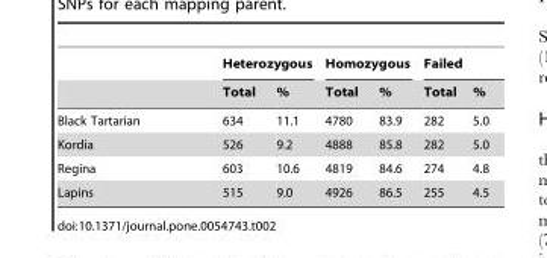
<table><thead><tr><td rowspan="2"></td><td colspan="2">Heterozygous</td><td colspan="2">Homozygous</td><td colspan="2">Failed</td></tr><tr><td>Total</td><td>%</td><td>Total</td><td>%</td><td>Total</td><td>%</td></tr></thead><tbody><tr><td>Black Tartarian</td><td>634</td><td>11.1</td><td>4780</td><td>83.9</td><td>282</td><td>5.0</td></tr><tr><td>Kordia</td><td>526</td><td>9.2</td><td>4888</td><td>85.8</td><td>282</td><td>5.0</td></tr><tr><td>Regina</td><td>603</td><td>10.6</td><td>4819</td><td>84.6</td><td>274</td><td>4.8</td></tr><tr><td>Lapins</td><td>515</td><td>9.0</td><td>4926</td><td>86.5</td><td>255</td><td>4.5</td></tr></tbody></table>